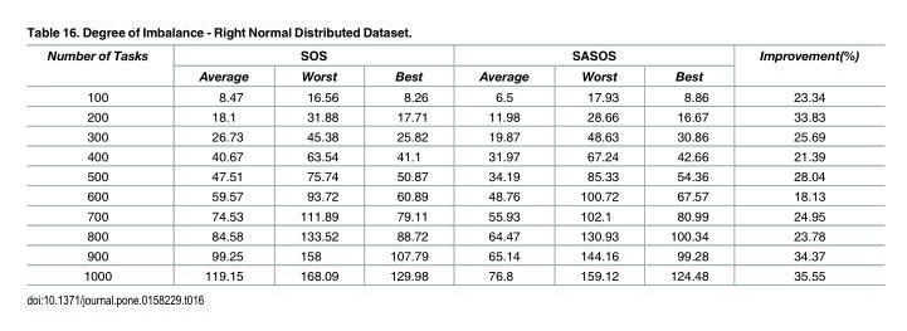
<table><thead><tr><td rowspan="2">Number of Tasks</td><td colspan="3">SOS</td><td colspan="3">SASOS</td><td rowspan="2">Improvement(%)</td></tr><tr><td>Average</td><td>Worst</td><td>Best</td><td>Average</td><td>Worst</td><td>Best</td></tr></thead><tbody><tr><td>100</td><td>8.47</td><td>16.56</td><td>8.26</td><td>6.5</td><td>17.93</td><td>8.86</td><td>23.34</td></tr><tr><td>200</td><td>18.1</td><td>31.88</td><td>17.71</td><td>11.98</td><td>28.66</td><td>16.67</td><td>33.83</td></tr><tr><td>300</td><td>26.73</td><td>45.38</td><td>25.82</td><td>19.87</td><td>48.63</td><td>30.86</td><td>25.69</td></tr><tr><td>400</td><td>40.67</td><td>63.54</td><td>41.1</td><td>31.97</td><td>67.24</td><td>42.66</td><td>21.39</td></tr><tr><td>500</td><td>47.51</td><td>75.74</td><td>50.87</td><td>34.19</td><td>85.33</td><td>54.36</td><td>28.04</td></tr><tr><td>600</td><td>59.57</td><td>93.72</td><td>60.89</td><td>48.76</td><td>100.72</td><td>67.57</td><td>18.13</td></tr><tr><td>700</td><td>74.53</td><td>111.89</td><td>79.11</td><td>55.93</td><td>102.1</td><td>80.99</td><td>24.95</td></tr><tr><td>800</td><td>84.58</td><td>133.52</td><td>88.72</td><td>64.47</td><td>130.93</td><td>100.34</td><td>23.78</td></tr><tr><td>900</td><td>99.25</td><td>158</td><td>107.79</td><td>65.14</td><td>144.16</td><td>99.28</td><td>34.37</td></tr><tr><td>1000</td><td>119.15</td><td>168.09</td><td>129.98</td><td>76.8</td><td>159.12</td><td>124.48</td><td>35.55</td></tr></tbody></table>